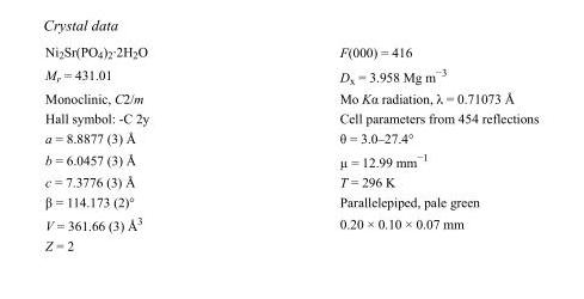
<table><tbody><tr><td>Ni<sub>2</sub>Sr(PO<sub>4</sub>)<sub>2</sub>·2H<sub>2</sub>O</td><td>F(000) = 416</td></tr><tr><td>M<sub>r</sub> = 431.01</td><td>D<sub>x</sub> = 3.958 Mg m<sup>−3</sup></td></tr><tr><td>Monoclinic, C2/m</td><td>Mo Kα radiation, λ = 0.71073 Å</td></tr><tr><td>Hall symbol: -C 2y</td><td>Cell parameters from 454 reflections</td></tr><tr><td>a = 8.8877 (3) Å</td><td>θ = 3.0–27.4°</td></tr><tr><td>b = 6.0457 (3) Å</td><td>µ = 12.99 mm<sup>−1</sup></td></tr><tr><td>c = 7.3776 (3) Å</td><td>T = 296 K</td></tr><tr><td>β = 114.173 (2)°</td><td>Parallelepiped, pale green</td></tr><tr><td>V = 361.66 (3) Å<sup>3</sup></td><td>0.20 × 0.10 × 0.07 mm</td></tr><tr><td>Z = 2</td><td></td></tr></tbody></table>